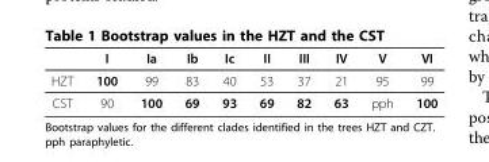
<table><thead><tr><td></td><td>I</td><td>Ia</td><td>Ib</td><td>Ic</td><td>II</td><td>III</td><td>IV</td><td>V</td><td>VI</td></tr></thead><tbody><tr><td>HZT</td><td>100</td><td>99</td><td>83</td><td>40</td><td>53</td><td>37</td><td>21</td><td>95</td><td>99</td></tr><tr><td>CST</td><td>90</td><td>100</td><td>69</td><td>93</td><td>69</td><td>82</td><td>63</td><td>pph</td><td>100</td></tr></tbody></table>